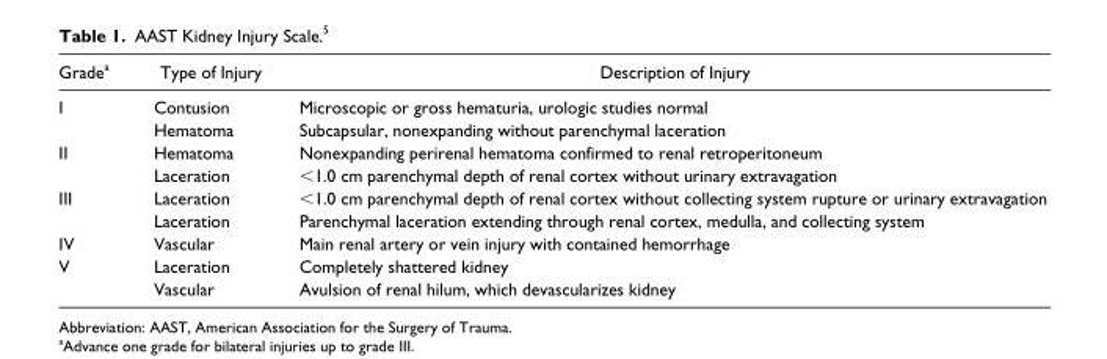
<table><thead><tr><td>Grade<sup>a</sup></td><td>Type of Injury</td><td>Description of Injury</td></tr></thead><tbody><tr><td rowspan="2">I</td><td>Contusion</td><td>Microscopic or gross hematuria, urologic studies normal</td></tr><tr><td>Hematoma</td><td>Subcapsular, nonexpanding without parenchymal laceration</td></tr><tr><td rowspan="2">II</td><td>Hematoma</td><td>Nonexpanding perirenal hematoma confirmed to renal retroperitoneum</td></tr><tr><td>Laceration</td><td>&lt;1.0 cm parenchymal depth of renal cortex without urinary extravagation</td></tr><tr><td rowspan="2">III</td><td>Laceration</td><td>&lt;1.0 cm parenchymal depth of renal cortex without collecting system rupture or urinary extravagation</td></tr><tr><td>Laceration</td><td>Parenchymal laceration extending through renal cortex, medulla, and collecting system</td></tr><tr><td>IV</td><td>Vascular</td><td>Main renal artery or vein injury with contained hemorrhage</td></tr><tr><td rowspan="2">V</td><td>Laceration</td><td>Completely shattered kidney</td></tr><tr><td>Vascular</td><td>Avulsion of renal hilum, which devascularizes kidney</td></tr></tbody></table>